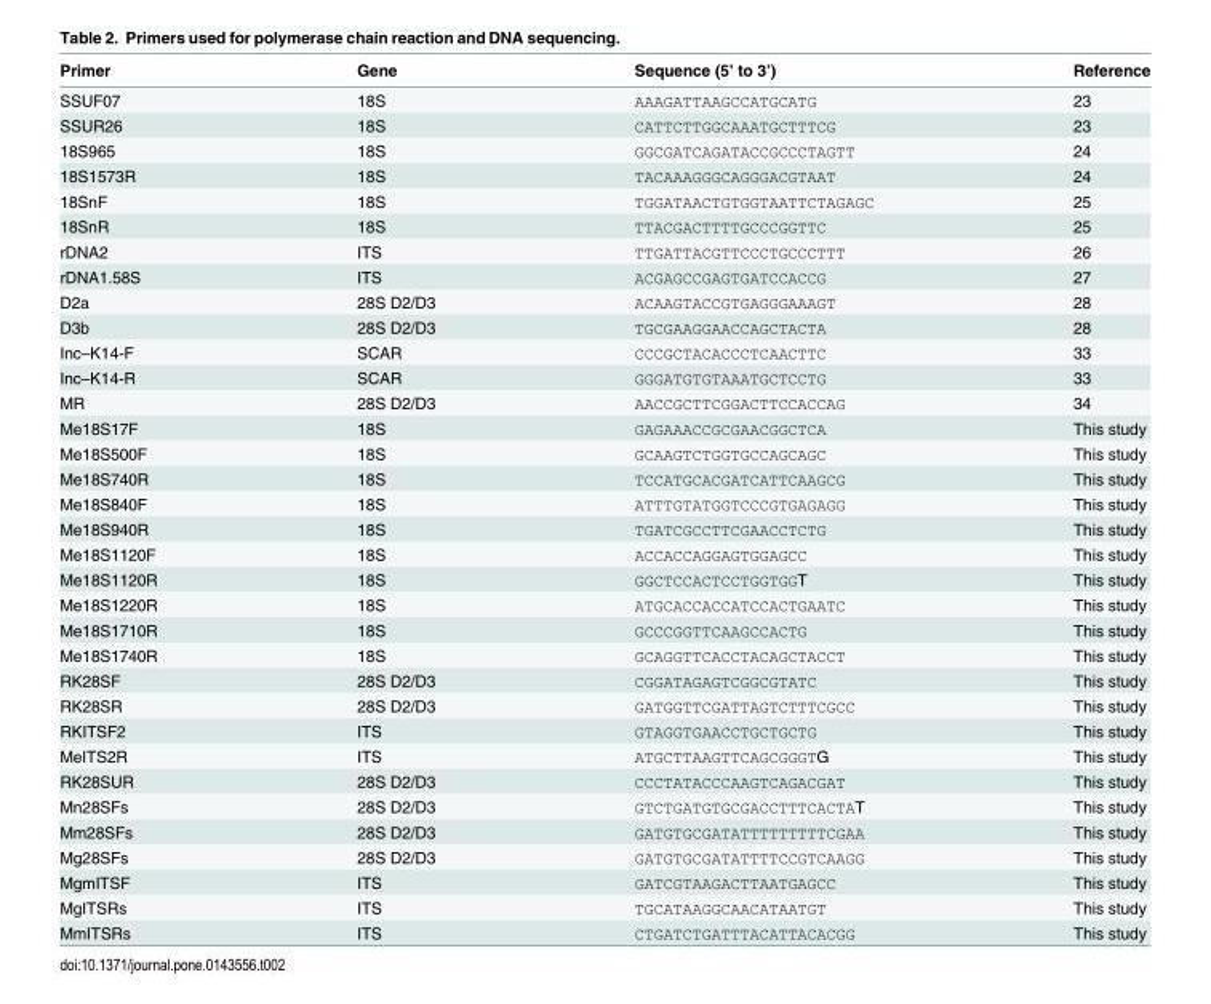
<table><thead><tr><td>Primer</td><td>Gene</td><td>Sequence (5’ to 3’)</td><td>Reference</td></tr></thead><tbody><tr><td>SSUF07</td><td>18S</td><td>AAAGATTAAGCCATGCATG</td><td>23</td></tr><tr><td>SSUR26</td><td>18S</td><td>CATTCTTGGCAAATGCTTTCG</td><td>23</td></tr><tr><td>18S965</td><td>18S</td><td>GGCGATCAGATACCGCCCTAGTT</td><td>24</td></tr><tr><td>18S1573R</td><td>18S</td><td>TACAAAGGGCAGGGACGTAAT</td><td>24</td></tr><tr><td>18SnF</td><td>18S</td><td>TGGATAACTGTGGTAATTCTAGAGC</td><td>25</td></tr><tr><td>18SnR</td><td>18S</td><td>TTACGACTTTTGCCCGGTTC</td><td>25</td></tr><tr><td>rDNA2</td><td>ITS</td><td>TTGATTACGTTCCCTGCCCTTT</td><td>26</td></tr><tr><td>rDNA1.58S</td><td>ITS</td><td>ACGAGCCGAGTGATCCACCG</td><td>27</td></tr><tr><td>D2a</td><td>28S D2/D3</td><td>ACAAGTACCGTGAGGGAAAGT</td><td>28</td></tr><tr><td>D3b</td><td>28S D2/D3</td><td>TGCGAAGGAACCAGCTACTA</td><td>28</td></tr><tr><td>Inc–K14-F</td><td>SCAR</td><td>CCCGCTACACCCTCAACTTC</td><td>33</td></tr><tr><td>Inc–K14-R</td><td>SCAR</td><td>GGGATGTGTAAATGCTCCTG</td><td>33</td></tr><tr><td>MR</td><td>28S D2/D3</td><td>AACCGCTTCGGACTTCCACCAG</td><td>34</td></tr><tr><td>Me18S17F</td><td>18S</td><td>GAGAAACCGCGAACGGCTCA</td><td>This study</td></tr><tr><td>Me18S500F</td><td>18S</td><td>GCAAGTCTGGTGCCAGCAGC</td><td>This study</td></tr><tr><td>Me18S740R</td><td>18S</td><td>TCCATGCACGATCATTCAAGCG</td><td>This study</td></tr><tr><td>Me18S840F</td><td>18S</td><td>ATTTGTATGGTCCCGTGAGAGG</td><td>This study</td></tr><tr><td>Me18S940R</td><td>18S</td><td>TGATCGCCTTCGAACCTCTG</td><td>This study</td></tr><tr><td>Me18S1120F</td><td>18S</td><td>ACCACCAGGAGTGGAGCC</td><td>This study</td></tr><tr><td>Me18S1120R</td><td>18S</td><td>GGCTCCACTCCTGGTGGT</td><td>This study</td></tr><tr><td>Me18S1220R</td><td>18S</td><td>ATGCACCACCATCCACTGAATC</td><td>This study</td></tr><tr><td>Me18S1710R</td><td>18S</td><td>GCCCGGTTCAAGCCACTG</td><td>This study</td></tr><tr><td>Me18S1740R</td><td>18S</td><td>GCAGGTTCACCTACAGCTACCT</td><td>This study</td></tr><tr><td>RK28SF</td><td>28S D2/D3</td><td>CGGATAGAGTCGGCGTATC</td><td>This study</td></tr><tr><td>RK28SR</td><td>28S D2/D3</td><td>GATGGTTCGATTAGTCTTTCGCC</td><td>This study</td></tr><tr><td>RKITSF2</td><td>ITS</td><td>GTAGGTGAACCTGCTGCTG</td><td>This study</td></tr><tr><td>MeITS2R</td><td>ITS</td><td>ATGCTTAAGTTCAGCGGGTG</td><td>This study</td></tr><tr><td>RK28SUR</td><td>28S D2/D3</td><td>CCCTATACCCAAGTCAGACGAT</td><td>This study</td></tr><tr><td>Mn28SFs</td><td>28S D2/D3</td><td>GTCTGATGTGCGACCTTTCACTAT</td><td>This study</td></tr><tr><td>Mm28SFs</td><td>28S D2/D3</td><td>GATGTGCGATATTTTTTTTTCGAA</td><td>This study</td></tr><tr><td>Mg28SFs</td><td>28S D2/D3</td><td>GATGTGCGATATTTTCCGTCAAGG</td><td>This study</td></tr><tr><td>MgmITSF</td><td>ITS</td><td>GATCGTAAGACTTAATGAGCC</td><td>This study</td></tr><tr><td>MgITSRs</td><td>ITS</td><td>TGCATAAGGCAACATAATGT</td><td>This study</td></tr><tr><td>MmITSRs</td><td>ITS</td><td>CTGATCTGATTTACATTACACGG</td><td>This study</td></tr></tbody></table>